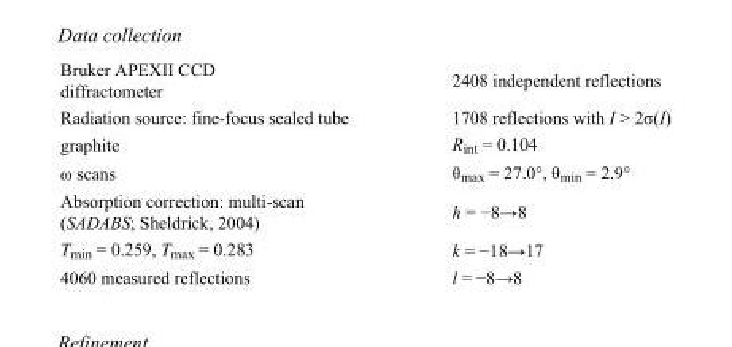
<table><tbody><tr><td>Bruker APEXII CCD diffractometer</td><td>2408 independent reflections</td></tr><tr><td>Radiation source: fine-focus sealed tube</td><td>1708 reflections with I &gt; 2σ(I)</td></tr><tr><td>graphite</td><td>R<sub>int</sub> = 0.104</td></tr><tr><td>ω scans</td><td>θ<sub>max</sub> = 27.0°, θ<sub>min</sub> = 2.9°</td></tr><tr><td>Absorption correction: multi-scan (SADABS; Sheldrick, 2004)</td><td>h = −8→8</td></tr><tr><td>T<sub>min</sub> = 0.259, T<sub>max</sub> = 0.283</td><td>k = −18→17</td></tr><tr><td>4060 measured reflections</td><td>l = −8→8</td></tr></tbody></table>